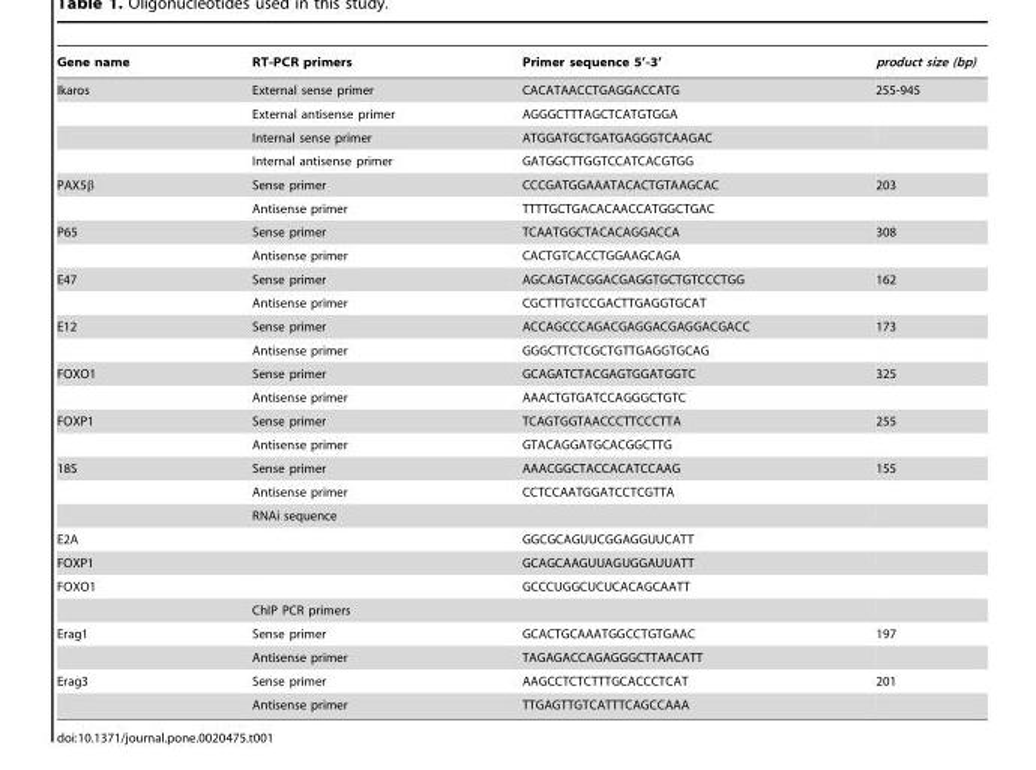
<table><thead><tr><td>Gene name</td><td>RT-PCR primers</td><td>Primer sequence 5’-3’</td><td>product size (bp)</td></tr></thead><tbody><tr><td rowspan="4">Ikaros</td><td>External sense primer</td><td>CACATAACCTGAGGACCATG</td><td>255-945</td></tr><tr><td>External antisense primer</td><td>AGGGCTTTAGCTCATGTGGA</td><td></td></tr><tr><td>Internal sense primer</td><td>ATGGATGCTGATGAGGGTCAAGAC</td><td></td></tr><tr><td>Internal antisense primer</td><td>GATGGCTTGGTCCATCACGTGG</td><td></td></tr><tr><td rowspan="2">PAX5β</td><td>Sense primer</td><td>CCCGATGGAAATACACTGTAAGCAC</td><td>203</td></tr><tr><td>Antisense primer</td><td>TTTTGCTGACACAACCATGGCTGAC</td><td></td></tr><tr><td rowspan="2">P65</td><td>Sense primer</td><td>TCAATGGCTACACAGGACCA</td><td>308</td></tr><tr><td>Antisense primer</td><td>CACTGTCACCTGGAAGCAGA</td><td></td></tr><tr><td rowspan="2">E47</td><td>Sense primer</td><td>AGCAGTACGGACGAGGTGCTGTCCCTGG</td><td>162</td></tr><tr><td>Antisense primer</td><td>CGCTTTGTCCGACTTGAGGTGCAT</td><td></td></tr><tr><td rowspan="2">E12</td><td>Sense primer</td><td>ACCAGCCCAGACGAGGACGAGGACGACC</td><td>173</td></tr><tr><td>Antisense primer</td><td>GGGCTTCTCGCTGTTGAGGTGCAG</td><td></td></tr><tr><td rowspan="2">FOXO1</td><td>Sense primer</td><td>GCAGATCTACGAGTGGATGGTC</td><td>325</td></tr><tr><td>Antisense primer</td><td>AAACTGTGATCCAGGGCTGTC</td><td></td></tr><tr><td rowspan="2">FOXP1</td><td>Sense primer</td><td>TCAGTGGTAACCCTTCCCTTA</td><td>255</td></tr><tr><td>Antisense primer</td><td>GTACAGGATGCACGGCTTG</td><td></td></tr><tr><td rowspan="3">18S</td><td>Sense primer</td><td>AAACGGCTACCACATCCAAG</td><td>155</td></tr><tr><td>Antisense primer</td><td>CCTCCAATGGATCCTCGTTA</td><td></td></tr><tr><td>RNAi sequence</td><td></td><td></td></tr><tr><td>E2A</td><td></td><td>GGCGCAGUUCGGAGGUUCATT</td><td></td></tr><tr><td>FOXP1</td><td></td><td>GCAGCAAGUUAGUGGAUUATT</td><td></td></tr><tr><td rowspan="2">FOXO1</td><td></td><td>GCCCUGGCUCUCACAGCAATT</td><td></td></tr><tr><td>ChIP PCR primers</td><td></td><td></td></tr><tr><td rowspan="2">Erag1</td><td>Sense primer</td><td>GCACTGCAAATGGCCTGTGAAC</td><td>197</td></tr><tr><td>Antisense primer</td><td>TAGAGACCAGAGGGCTTAACATT</td><td></td></tr><tr><td rowspan="2">Erag3</td><td>Sense primer</td><td>AAGCCTCTCTTTGCACCCTCAT</td><td>201</td></tr><tr><td>Antisense primer</td><td>TTGAGTTGTCATTTCAGCCAAA</td><td></td></tr></tbody></table>